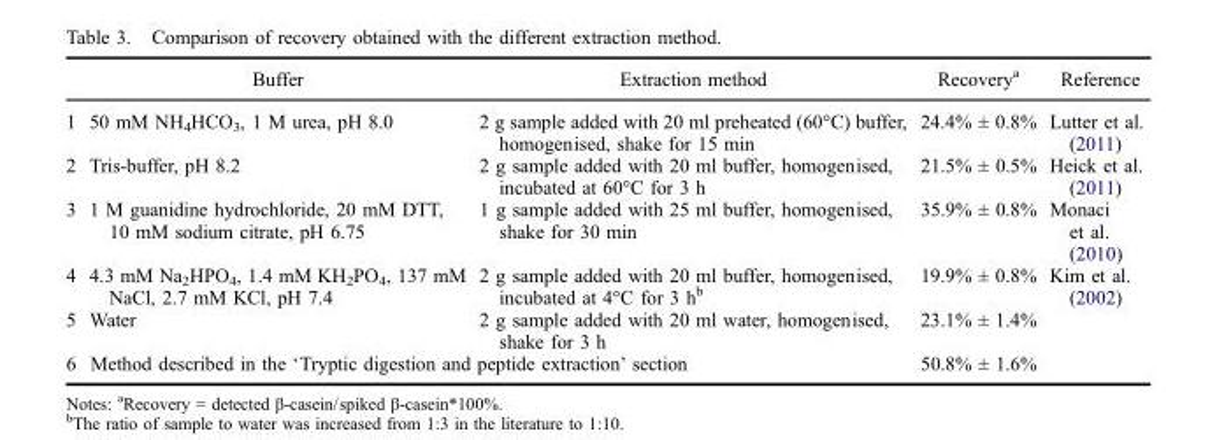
<table><thead><tr><td></td><td>Buffer</td><td>Extraction method</td><td>Recovery<sup>a</sup></td><td>Reference</td></tr></thead><tbody><tr><td>1</td><td>50 mM NH<sub>4</sub>HCO<sub>3</sub>, 1 M urea, pH 8.0</td><td>2 g sample added with 20 ml preheated (60°C) buffer, homogenised, shake for 15 min</td><td>24.4% ± 0.8%</td><td>Lutter et al. (2011)</td></tr><tr><td>2</td><td>Tris-buffer, pH 8.2</td><td>2 g sample added with 20 ml buffer, homogenised, incubated at 60°C for 3 h</td><td>21.5% ± 0.5%</td><td>Heick et al. (2011)</td></tr><tr><td>3</td><td>1 M guanidine hydrochloride, 20 mM DTT, 10 mM sodium citrate, pH 6.75</td><td>1 g sample added with 25 ml buffer, homogenised, shake for 30 min</td><td>35.9% ± 0.8%</td><td>Monaci et al. (2010)</td></tr><tr><td>4</td><td>4.3 mM Na<sub>2</sub>HPO<sub>4</sub>, 1.4 mM KH<sub>2</sub>PO<sub>4</sub>, 137 mM NaCl, 2.7 mM KCl, pH 7.4</td><td>2 g sample added with 20 ml buffer, homogenised, incubated at 4°C for 3 h<sup>b</sup></td><td>19.9% ± 0.8%</td><td>Kim et al. (2002)</td></tr><tr><td>5</td><td>Water</td><td>2 g sample added with 20 ml water, homogenised, shake for 3 h</td><td>23.1% ± 1.4%</td><td></td></tr><tr><td>6</td><td colspan="2">Method described in the ‘Tryptic digestion and peptide extraction’ section</td><td>50.8% ± 1.6%</td><td></td></tr></tbody></table>